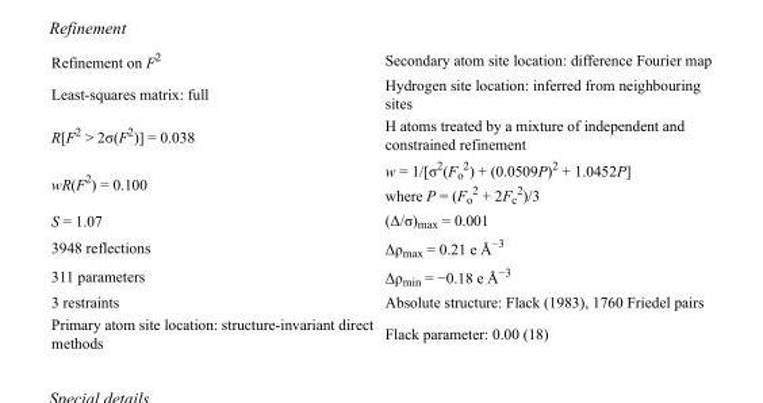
<table><tbody><tr><td>Refinement on F<sup>2</sup></td><td>Secondary atom site location: difference Fourier map</td></tr><tr><td>Least-squares matrix: full</td><td>Hydrogen site location: inferred from neighbouring sites</td></tr><tr><td>R[F<sup>2</sup> &gt; 2σ(F<sup>2</sup>)] = 0.038</td><td>H atoms treated by a mixture of independent and constrained refinement</td></tr><tr><td>wR(F<sup>2</sup>) = 0.100</td><td>w = 1/[σ<sup>2</sup>(F<sub>o</sub> <sup>2</sup>) + (0.0509P)<sup>2</sup> + 1.0452P] where P = (F<sub>o</sub> <sup>2</sup> + 2F<sub>c</sub> <sup>2</sup>)/3</td></tr><tr><td>S = 1.07</td><td>(Δ/σ)<sub>max</sub> = 0.001</td></tr><tr><td>3948 reflections</td><td>Δρ<sub>max</sub> = 0.21 e Å<sup>−3</sup></td></tr><tr><td>311 parameters</td><td>Δρ<sub>min</sub> = −0.18 e Å<sup>−3</sup></td></tr><tr><td>3 restraints</td><td>Absolute structure: Flack (1983), 1760 Friedel pairs</td></tr><tr><td>Primary atom site location: structure-invariant direct methods</td><td>Flack parameter: 0.00 (18)</td></tr></tbody></table>